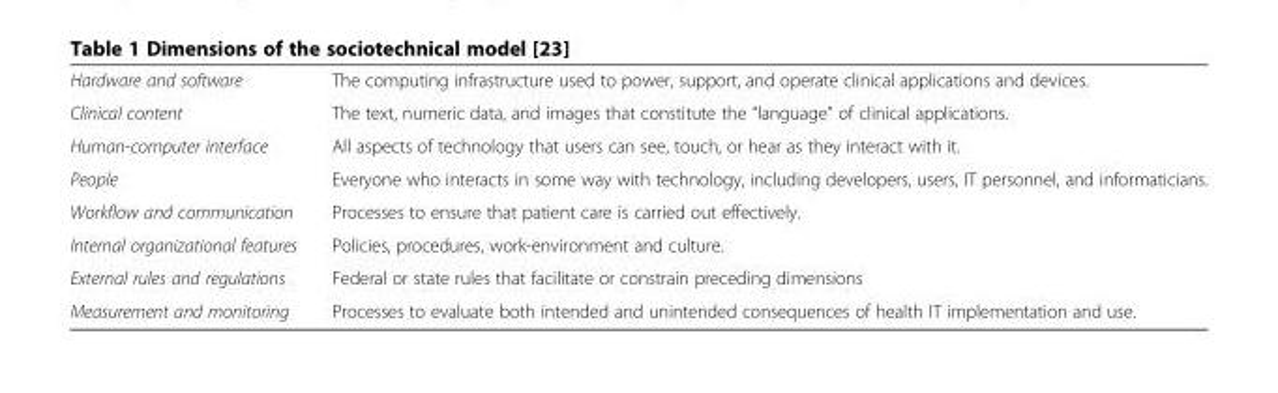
<table><tbody><tr><td>Hardware and software</td><td>The computing infrastructure used to power, support, and operate clinical applications and devices.</td></tr><tr><td>Clinical content</td><td>The text, numeric data, and images that constitute the “language” of clinical applications.</td></tr><tr><td>Human-computer interface</td><td>All aspects of technology that users can see, touch, or hear as they interact with it.</td></tr><tr><td>People</td><td>Everyone who interacts in some way with technology, including developers, users, IT personnel, and informaticians.</td></tr><tr><td>Workflow and communication</td><td>Processes to ensure that patient care is carried out effectively.</td></tr><tr><td>Internal organizational features</td><td>Policies, procedures, work-environment and culture.</td></tr><tr><td>External rules and regulations</td><td>Federal or state rules that facilitate or constrain preceding dimensions</td></tr><tr><td>Measurement and monitoring</td><td>Processes to evaluate both intended and unintended consequences of health IT implementation and use.</td></tr></tbody></table>